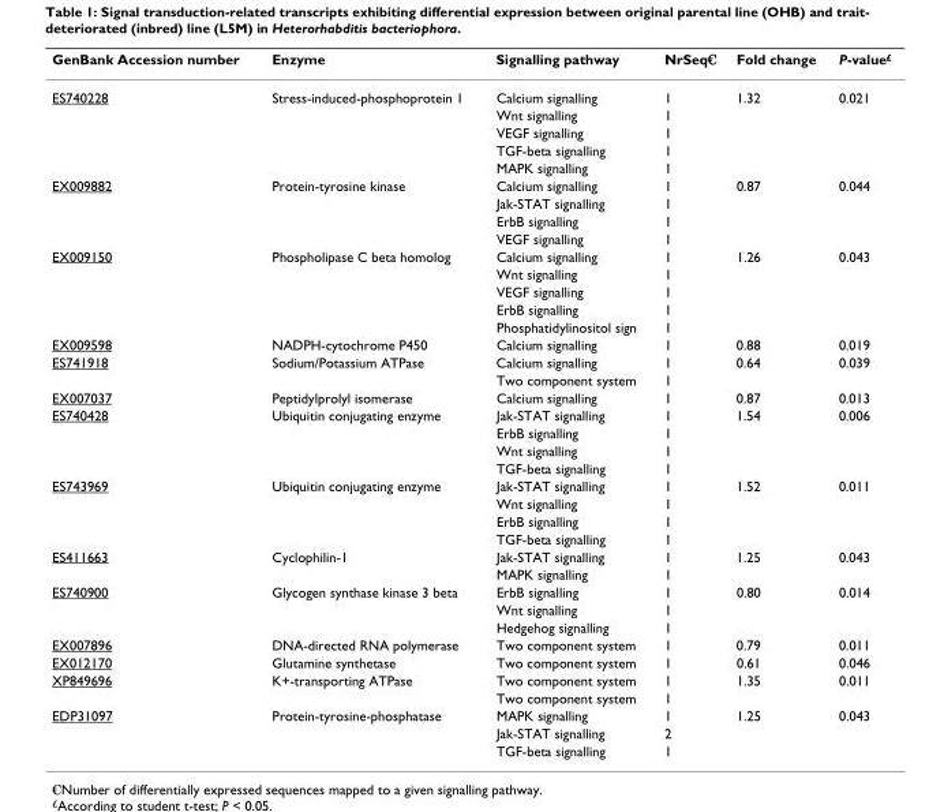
<table><thead><tr><td>GenBank Accession number</td><td>Enzyme</td><td>Signalling pathway</td><td>NrSeq<sup>€</sup></td><td>Fold change</td><td>P-value<sup>£</sup></td></tr></thead><tbody><tr><td rowspan="5">ES740228</td><td>Stress-induced-phosphoprotein 1</td><td>Calcium signalling</td><td>1</td><td>1.32</td><td>0.021</td></tr><tr><td></td><td>Wnt signalling</td><td>1</td><td></td><td></td></tr><tr><td></td><td>VEGF signalling</td><td>1</td><td></td><td></td></tr><tr><td></td><td>TGF-beta signalling</td><td>1</td><td></td><td></td></tr><tr><td></td><td>MAPK signalling</td><td>1</td><td></td><td></td></tr><tr><td rowspan="4">EX009882</td><td>Protein-tyrosine kinase</td><td>Calcium signalling</td><td>1</td><td>0.87</td><td>0.044</td></tr><tr><td></td><td>Jak-STAT signalling</td><td>1</td><td></td><td></td></tr><tr><td></td><td>ErbB signalling</td><td>1</td><td></td><td></td></tr><tr><td></td><td>VEGF signalling</td><td>1</td><td></td><td></td></tr><tr><td rowspan="5">EX009150</td><td>Phospholipase C beta homolog</td><td>Calcium signalling</td><td>1</td><td>1.26</td><td>0.043</td></tr><tr><td></td><td>Wnt signalling</td><td>1</td><td></td><td></td></tr><tr><td></td><td>VEGF signalling</td><td>1</td><td></td><td></td></tr><tr><td></td><td>ErbB signalling</td><td>1</td><td></td><td></td></tr><tr><td></td><td>Phosphatidylinositol sign</td><td>1</td><td></td><td></td></tr><tr><td>EX009598</td><td>NADPH-cytochrome P450</td><td>Calcium signalling</td><td>1</td><td>0.88</td><td>0.019</td></tr><tr><td rowspan="2">ES741918</td><td>Sodium/Potassium ATPase</td><td>Calcium signalling</td><td>1</td><td>0.64</td><td>0.039</td></tr><tr><td></td><td>Two component system</td><td>1</td><td></td><td></td></tr><tr><td>EX007037</td><td>Peptidylprolyl isomerase</td><td>Calcium signalling</td><td>1</td><td>0.87</td><td>0.013</td></tr><tr><td rowspan="4">ES740428</td><td>Ubiquitin conjugating enzyme</td><td>Jak-STAT signalling</td><td>1</td><td>1.54</td><td>0.006</td></tr><tr><td></td><td>ErbB signalling</td><td>1</td><td></td><td></td></tr><tr><td></td><td>Wnt signalling</td><td>1</td><td></td><td></td></tr><tr><td></td><td>TGF-beta signalling</td><td>1</td><td></td><td></td></tr><tr><td rowspan="4">ES743969</td><td>Ubiquitin conjugating enzyme</td><td>Jak-STAT signalling</td><td>1</td><td>1.52</td><td>0.011</td></tr><tr><td></td><td>Wnt signalling</td><td>1</td><td></td><td></td></tr><tr><td></td><td>ErbB signalling</td><td>1</td><td></td><td></td></tr><tr><td></td><td>TGF-beta signalling</td><td>1</td><td></td><td></td></tr><tr><td rowspan="2">ES411663</td><td>Cyclophilin-1</td><td>Jak-STAT signalling</td><td>1</td><td>1.25</td><td>0.043</td></tr><tr><td></td><td>MAPK signalling</td><td>1</td><td></td><td></td></tr><tr><td rowspan="3">ES740900</td><td>Glycogen synthase kinase 3 beta</td><td>ErbB signalling</td><td>1</td><td>0.80</td><td>0.014</td></tr><tr><td></td><td>Wnt signalling</td><td>1</td><td></td><td></td></tr><tr><td></td><td>Hedgehog signalling</td><td>1</td><td></td><td></td></tr><tr><td>EX007896</td><td>DNA-directed RNA polymerase</td><td>Two component system</td><td>1</td><td>0.79</td><td>0.011</td></tr><tr><td>EX012170</td><td>Glutamine synthetase</td><td>Two component system</td><td>1</td><td>0.61</td><td>0.046</td></tr><tr><td rowspan="2">XP849696</td><td>K+-transporting ATPase</td><td>Two component system</td><td>1</td><td>1.35</td><td>0.011</td></tr><tr><td></td><td>Two component system</td><td>1</td><td></td><td></td></tr><tr><td rowspan="3">EDP31097</td><td>Protein-tyrosine-phosphatase</td><td>MAPK signalling</td><td>1</td><td>1.25</td><td>0.043</td></tr><tr><td></td><td>Jak-STAT signalling</td><td>2</td><td></td><td></td></tr><tr><td></td><td>TGF-beta signalling</td><td>1</td><td></td><td></td></tr></tbody></table>